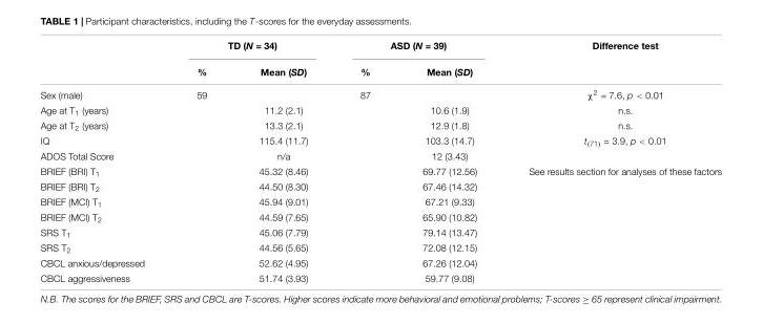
<table><thead><tr><td rowspan="2"></td><td colspan="2">TD (N = 34)</td><td colspan="2">ASD (N = 39)</td><td rowspan="2">Difference test</td></tr><tr><td>%</td><td>Mean (SD)</td><td>%</td><td>Mean (SD)</td></tr></thead><tbody><tr><td>Sex (male)</td><td>59</td><td></td><td>87</td><td></td><td>χ<sup>2</sup> = 7.6, p &lt; 0.01</td></tr><tr><td>Age at T<sub>1</sub> (years)</td><td></td><td>11.2 (2.1)</td><td></td><td>10.6 (1.9)</td><td>n.s.</td></tr><tr><td>Age at T<sub>2</sub> (years)</td><td></td><td>13.3 (2.1)</td><td></td><td>12.9 (1.8)</td><td>n.s.</td></tr><tr><td>IQ</td><td></td><td>115.4 (11.7)</td><td></td><td>103.3 (14.7)</td><td>t<sub>(71)</sub> = 3.9, p &lt; 0.01</td></tr><tr><td>ADOS Total Score</td><td></td><td>n/a</td><td></td><td>12 (3.43)</td><td></td></tr><tr><td>BRIEF (BRI) T<sub>1</sub></td><td></td><td>45.32 (8.46)</td><td></td><td>69.77 (12.56)</td><td>See results section for analyses of these factors</td></tr><tr><td>BRIEF (BRI) T<sub>2</sub></td><td></td><td>44.50 (8.30)</td><td></td><td>67.46 (14.32)</td><td></td></tr><tr><td>BRIEF (MCI) T<sub>1</sub></td><td></td><td>45.94 (9.01)</td><td></td><td>67.21 (9.33)</td><td></td></tr><tr><td>BRIEF (MCI) T<sub>2</sub></td><td></td><td>44.59 (7.65)</td><td></td><td>65.90 (10.82)</td><td></td></tr><tr><td>SRS T<sub>1</sub></td><td></td><td>45.06 (7.79)</td><td></td><td>79.14 (13.47)</td><td></td></tr><tr><td>SRS T<sub>2</sub></td><td></td><td>44.56 (5.65)</td><td></td><td>72.08 (12.15)</td><td></td></tr><tr><td>CBCL anxious/depressed</td><td></td><td>52.62 (4.95)</td><td></td><td>67.26 (12.04)</td><td></td></tr><tr><td>CBCL aggressiveness</td><td></td><td>51.74 (3.93)</td><td></td><td>59.77 (9.08)</td><td></td></tr></tbody></table>